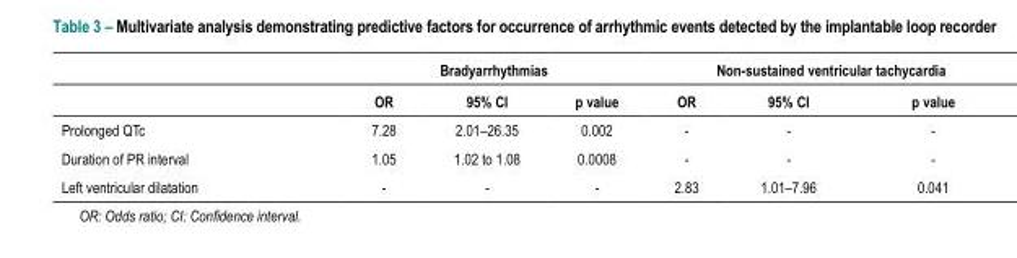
<table><thead><tr><td rowspan="2"></td><td colspan="3">Bradyarrhythmias</td><td colspan="3">Non-sustained ventricular tachycardia</td></tr><tr><td>OR</td><td>95% CI</td><td>p value</td><td>OR</td><td>95% CI</td><td>p value</td></tr></thead><tbody><tr><td>Prolonged QTc</td><td>7.28</td><td>2.01–26.35</td><td>0.002</td><td>-</td><td>-</td><td>-</td></tr><tr><td>Duration of PR interval</td><td>1.05</td><td>1.02 to 1.08</td><td>0.0008</td><td>-</td><td>-</td><td>-</td></tr><tr><td>Left ventricular dilatation</td><td>-</td><td>-</td><td>-</td><td>2.83</td><td>1.01–7.96</td><td>0.041</td></tr></tbody></table>